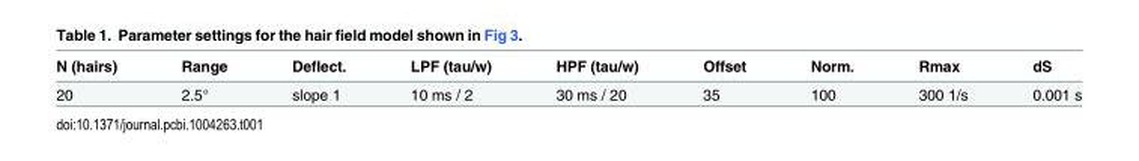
<table><thead><tr><td>N (hairs)</td><td>Range</td><td>Deflect.</td><td>LPF (tau/w)</td><td>HPF (tau/w)</td><td>Offset</td><td>Norm.</td><td>Rmax</td><td>dS</td></tr></thead><tbody><tr><td>20</td><td>2.5°</td><td>slope 1</td><td>10 ms / 2</td><td>30 ms / 20</td><td>35</td><td>100</td><td>300 1/s</td><td>0.001 s</td></tr></tbody></table>